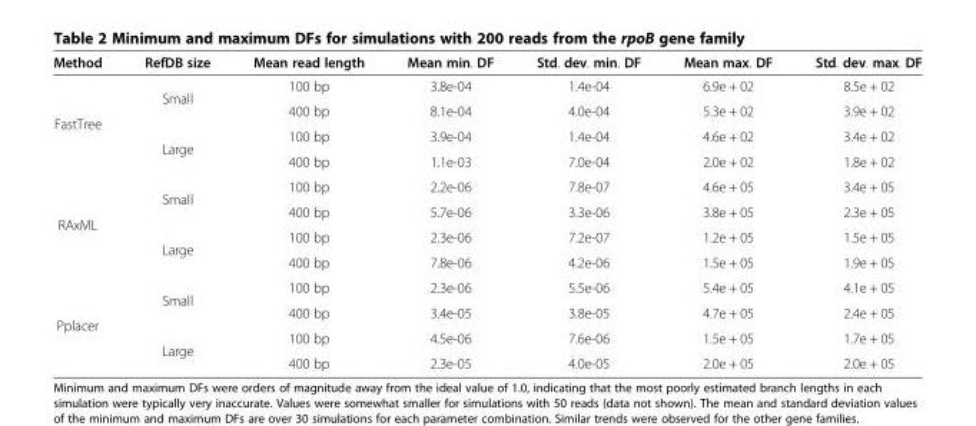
<table><thead><tr><td>Method</td><td>RefDB size</td><td>Mean read length</td><td>Mean min. DF</td><td>Std. dev. min. DF</td><td>Mean max. DF</td><td>Std. dev. max. DF</td></tr></thead><tbody><tr><td rowspan="4">FastTree</td><td rowspan="2">Small</td><td>100 bp</td><td>3.8e-04</td><td>1.4e-04</td><td>6.9e + 02</td><td>8.5e + 02</td></tr><tr><td>400 bp</td><td>8.1e-04</td><td>4.0e-04</td><td>5.3e + 02</td><td>3.9e + 02</td></tr><tr><td rowspan="2">Large</td><td>100 bp</td><td>3.9e-04</td><td>1.4e-04</td><td>4.6e + 02</td><td>3.4e + 02</td></tr><tr><td>400 bp</td><td>1.1e-03</td><td>7.0e-04</td><td>2.0e + 02</td><td>1.8e + 02</td></tr><tr><td rowspan="4">RAxML</td><td rowspan="2">Small</td><td>100 bp</td><td>2.2e-06</td><td>7.8e-07</td><td>4.6e + 05</td><td>3.4e + 05</td></tr><tr><td>400 bp</td><td>5.7e-06</td><td>3.3e-06</td><td>3.8e + 05</td><td>2.3e + 05</td></tr><tr><td rowspan="2">Large</td><td>100 bp</td><td>2.3e-06</td><td>7.2e-07</td><td>1.2e + 05</td><td>1.5e + 05</td></tr><tr><td>400 bp</td><td>7.8e-06</td><td>4.2e-06</td><td>1.5e + 05</td><td>1.9e + 05</td></tr><tr><td rowspan="4">Pplacer</td><td rowspan="2">Small</td><td>100 bp</td><td>2.3e-06</td><td>5.5e-06</td><td>5.4e + 05</td><td>4.1e + 05</td></tr><tr><td>400 bp</td><td>3.4e-05</td><td>3.8e-05</td><td>4.7e + 05</td><td>2.4e + 05</td></tr><tr><td rowspan="2">Large</td><td>100 bp</td><td>4.5e-06</td><td>7.6e-06</td><td>1.5e + 05</td><td>1.7e + 05</td></tr><tr><td>400 bp</td><td>2.3e-05</td><td>4.0e-05</td><td>2.0e + 05</td><td>2.0e + 05</td></tr></tbody></table>